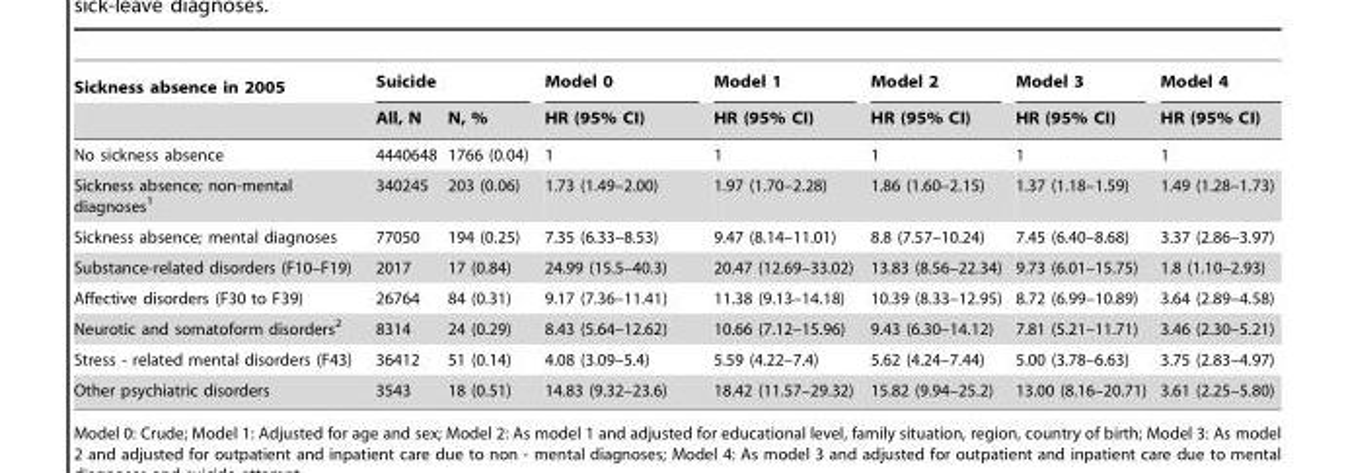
<table><thead><tr><td rowspan="2">Sickness absence in 2005</td><td colspan="2">Suicide</td><td rowspan="2">Model 0 HR (95% CI)</td><td rowspan="2">Model 1 HR (95% CI)</td><td rowspan="2">Model 2 HR (95% CI)</td><td rowspan="2">Model 3 HR (95% CI)</td><td rowspan="2">Model 4 HR (95% CI)</td></tr><tr><td>All, N</td><td>N, %</td></tr></thead><tbody><tr><td>No sickness absence</td><td>4440648</td><td>1766 (0.04)</td><td>1</td><td>1</td><td>1</td><td>1</td><td>1</td></tr><tr><td>Sickness absence; non-mental diagnoses<sup>1</sup></td><td>340245</td><td>203 (0.06)</td><td>1.73 (1.49–2.00)</td><td>1.97 (1.70–2.28)</td><td>1.86 (1.60–2.15)</td><td>1.37 (1.18–1.59)</td><td>1.49 (1.28–1.73)</td></tr><tr><td>Sickness absence; mental diagnoses</td><td>77050</td><td>194 (0.25)</td><td>7.35 (6.33–8.53)</td><td>9.47 (8.14–11.01)</td><td>8.8 (7.57–10.24)</td><td>7.45 (6.40–8.68)</td><td>3.37 (2.86–3.97)</td></tr><tr><td>Substance-related disorders (F10–F19)</td><td>2017</td><td>17 (0.84)</td><td>24.99 (15.5–40.3)</td><td>20.47 (12.69–33.02)</td><td>13.83 (8.56–22.34)</td><td>9.73 (6.01–15.75)</td><td>1.8 (1.10–2.93)</td></tr><tr><td>Affective disorders (F30 to F39)</td><td>26764</td><td>84 (0.31)</td><td>9.17 (7.36–11.41)</td><td>11.38 (9.13–14.18)</td><td>10.39 (8.33–12.95)</td><td>8.72 (6.99–10.89)</td><td>3.64 (2.89–4.58)</td></tr><tr><td>Neurotic and somatoform disorders<sup>2</sup></td><td>8314</td><td>24 (0.29)</td><td>8.43 (5.64–12.62)</td><td>10.66 (7.12–15.96)</td><td>9.43 (6.30–14.12)</td><td>7.81 (5.21–11.71)</td><td>3.46 (2.30–5.21)</td></tr><tr><td>Stress - related mental disorders (F43)</td><td>36412</td><td>51 (0.14)</td><td>4.08 (3.09–5.4)</td><td>5.59 (4.22–7.4)</td><td>5.62 (4.24–7.44)</td><td>5.00 (3.78–6.63)</td><td>3.75 (2.83–4.97)</td></tr><tr><td>Other psychiatric disorders</td><td>3543</td><td>18 (0.51)</td><td>14.83 (9.32–23.6)</td><td>18.42 (11.57–29.32)</td><td>15.82 (9.94–25.2)</td><td>13.00 (8.16–20.71)</td><td>3.61 (2.25–5.80)</td></tr></tbody></table>